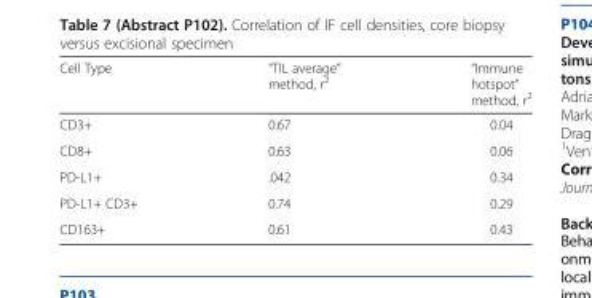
<table><thead><tr><td>Cell Type</td><td>“TIL average” method, r<sup>2</sup></td><td>“Immune hotspot” method, r<sup>2</sup></td></tr></thead><tbody><tr><td>CD3+</td><td>0.67</td><td>0.04</td></tr><tr><td>CD8+</td><td>0.63</td><td>0.06</td></tr><tr><td>PD-L1+</td><td>.042</td><td>0.34</td></tr><tr><td>PD-L1+ CD3+</td><td>0.74</td><td>0.29</td></tr><tr><td>CD163+</td><td>0.61</td><td>0.43</td></tr></tbody></table>